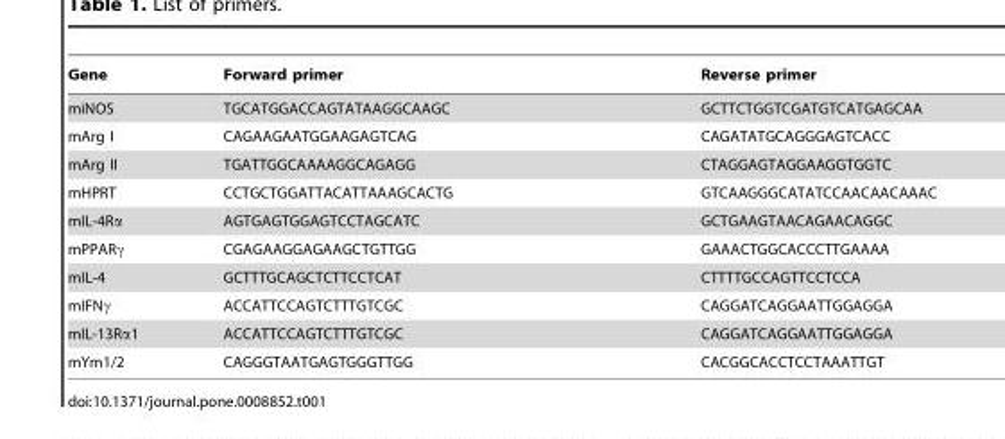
<table><thead><tr><td>Gene</td><td>Forward primer</td><td>Reverse primer</td></tr></thead><tbody><tr><td>miNOS</td><td>TGCATGGACCAGTATAAGGCAAGC</td><td>GCTTCTGGTCGATGTCATGAGCAA</td></tr><tr><td>mArg I</td><td>CAGAAGAATGGAAGAGTCAG</td><td>CAGATATGCAGGGAGTCACC</td></tr><tr><td>mArg II</td><td>TGATTGGCAAAAGGCAGAGG</td><td>CTAGGAGTAGGAAGGTGGTC</td></tr><tr><td>mHPRT</td><td>CCTGCTGGATTACATTAAAGCACTG</td><td>GTCAAGGGCATATCCAACAACAAAC</td></tr><tr><td>mIL-4Rα</td><td>AGTGAGTGGAGTCCTAGCATC</td><td>GCTGAAGTAACAGAACAGGC</td></tr><tr><td>mPPARγ</td><td>CGAGAAGGAGAAGCTGTTGG</td><td>GAAACTGGCACCCTTGAAAA</td></tr><tr><td>mIL-4</td><td>GCTTTGCAGCTCTTCCTCAT</td><td>CTTTTGCCAGTTCCTCCA</td></tr><tr><td>mIFNγ</td><td>ACCATTCCAGTCTTTGTCGC</td><td>CAGGATCAGGAATTGGAGGA</td></tr><tr><td>mIL-13Rα1</td><td>ACCATTCCAGTCTTTGTCGC</td><td>CAGGATCAGGAATTGGAGGA</td></tr><tr><td>mYm1/2</td><td>CAGGGTAATGAGTGGGTTGG</td><td>CACGGCACCTCCTAAATTGT</td></tr></tbody></table>